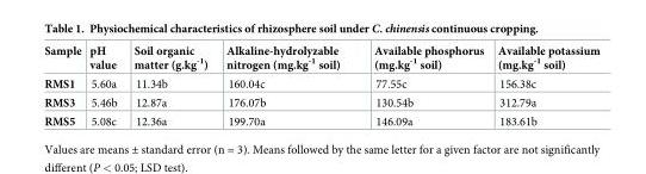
<table><thead><tr><td>Sample</td><td>pH value</td><td>Soil organic matter (g.kg<sup>-1</sup>)</td><td>Alkaline-hydrolyzable nitrogen (mg.kg<sup>-1</sup> soil)</td><td>Available phosphorus (mg.kg<sup>-1</sup> soil)</td><td>Available potassium (mg.kg<sup>-1</sup> soil)</td></tr></thead><tbody><tr><td>RMS1</td><td>5.60a</td><td>11.34b</td><td>160.04c</td><td>77.55c</td><td>156.38c</td></tr><tr><td>RMS3</td><td>5.46b</td><td>12.87a</td><td>176.07b</td><td>130.54b</td><td>312.79a</td></tr><tr><td>RMS5</td><td>5.08c</td><td>12.36a</td><td>199.70a</td><td>146.09a</td><td>183.61b</td></tr></tbody></table>